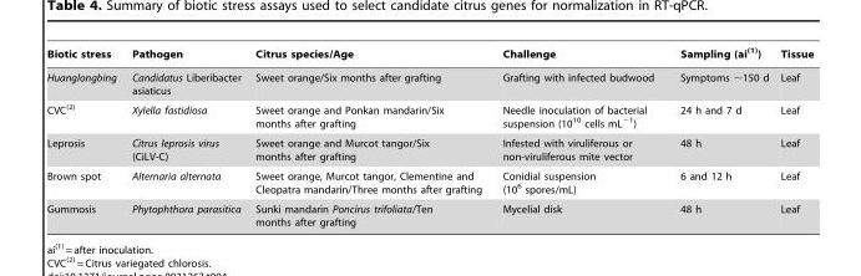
<table><thead><tr><td>Biotic stress</td><td>Pathogen</td><td>Citrus species/Age</td><td>Challenge</td><td>Sampling (ai<sup>(1)</sup>)</td><td>Tissue</td></tr></thead><tbody><tr><td>Huanglongbing</td><td>Candidatus Liberibacter asiaticus</td><td>Sweet orange/Six months after grafting</td><td>Grafting with infected budwood</td><td>Symptoms ∼150 d</td><td>Leaf</td></tr><tr><td>CVC<sup>(2)</sup></td><td>Xylella fastidiosa</td><td>Sweet orange and Ponkan mandarin/Six months after grafting</td><td>Needle inoculation of bacterial suspension (10<sup>10</sup> cells mL<sup>−1</sup>)</td><td>24 h and 7 d</td><td>Leaf</td></tr><tr><td>Leprosis</td><td>Citrus leprosis virus (CiLV-C)</td><td>Sweet orange and Murcot tangor/Six months after grafting</td><td>Infested with viruliferous or non-viruliferous mite vector</td><td>48 h</td><td>Leaf</td></tr><tr><td>Brown spot</td><td>Alternaria alternata</td><td>Sweet orange, Murcot tangor, Clementine and Cleopatra mandarin/Three months after grafting</td><td>Conidial suspension (10<sup>6</sup> spores/mL)</td><td>6 and 12 h</td><td>Leaf</td></tr><tr><td>Gummosis</td><td>Phytophthora parasitica</td><td>Sunki mandarin Poncirus trifoliata/Ten months after grafting</td><td>Mycelial disk</td><td>48 h</td><td>Leaf</td></tr></tbody></table>